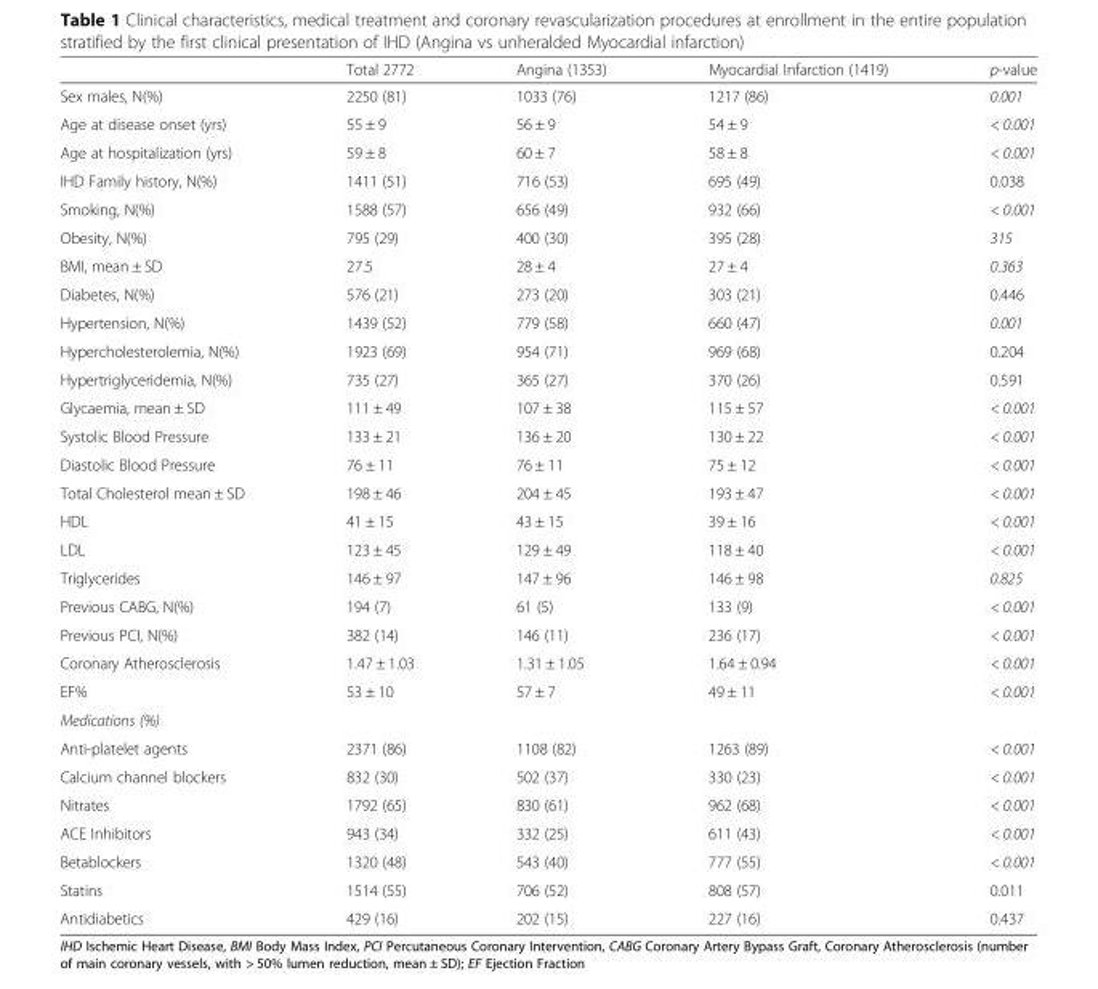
<table><thead><tr><td></td><td>Total 2772</td><td>Angina (1353)</td><td>Myocardial Infarction (1419)</td><td>p-value</td></tr></thead><tbody><tr><td>Sex males, N(%)</td><td>2250 (81)</td><td>1033 (76)</td><td>1217 (86)</td><td>0.001</td></tr><tr><td>Age at disease onset (yrs)</td><td>55 ± 9</td><td>56 ± 9</td><td>54 ± 9</td><td>&lt; 0.001</td></tr><tr><td>Age at hospitalization (yrs)</td><td>59 ± 8</td><td>60 ± 7</td><td>58 ± 8</td><td>&lt; 0.001</td></tr><tr><td>IHD Family history, N(%)</td><td>1411 (51)</td><td>716 (53)</td><td>695 (49)</td><td>0.038</td></tr><tr><td>Smoking, N(%)</td><td>1588 (57)</td><td>656 (49)</td><td>932 (66)</td><td>&lt; 0.001</td></tr><tr><td>Obesity, N(%)</td><td>795 (29)</td><td>400 (30)</td><td>395 (28)</td><td>315</td></tr><tr><td>BMI, mean ± SD</td><td>27.5</td><td>28 ± 4</td><td>27 ± 4</td><td>0.363</td></tr><tr><td>Diabetes, N(%)</td><td>576 (21)</td><td>273 (20)</td><td>303 (21)</td><td>0.446</td></tr><tr><td>Hypertension, N(%)</td><td>1439 (52)</td><td>779 (58)</td><td>660 (47)</td><td>0.001</td></tr><tr><td>Hypercholesterolemia, N(%)</td><td>1923 (69)</td><td>954 (71)</td><td>969 (68)</td><td>0.204</td></tr><tr><td>Hypertriglyceridemia, N(%)</td><td>735 (27)</td><td>365 (27)</td><td>370 (26)</td><td>0.591</td></tr><tr><td>Glycaemia, mean ± SD</td><td>111 ± 49</td><td>107 ± 38</td><td>115 ± 57</td><td>&lt; 0.001</td></tr><tr><td>Systolic Blood Pressure</td><td>133 ± 21</td><td>136 ± 20</td><td>130 ± 22</td><td>&lt; 0.001</td></tr><tr><td>Diastolic Blood Pressure</td><td>76 ± 11</td><td>76 ± 11</td><td>75 ± 12</td><td>&lt; 0.001</td></tr><tr><td>Total Cholesterol mean ± SD</td><td>198 ± 46</td><td>204 ± 45</td><td>193 ± 47</td><td>&lt; 0.001</td></tr><tr><td>HDL</td><td>41 ± 15</td><td>43 ± 15</td><td>39 ± 16</td><td>&lt; 0.001</td></tr><tr><td>LDL</td><td>123 ± 45</td><td>129 ± 49</td><td>118 ± 40</td><td>&lt; 0.001</td></tr><tr><td>Triglycerides</td><td>146 ± 97</td><td>147 ± 96</td><td>146 ± 98</td><td>0.825</td></tr><tr><td>Previous CABG, N(%)</td><td>194 (7)</td><td>61 (5)</td><td>133 (9)</td><td>&lt; 0.001</td></tr><tr><td>Previous PCI, N(%)</td><td>382 (14)</td><td>146 (11)</td><td>236 (17)</td><td>&lt; 0.001</td></tr><tr><td>Coronary Atherosclerosis</td><td>1.47 ± 1.03</td><td>1.31 ± 1.05</td><td>1.64 ± 0.94</td><td>&lt; 0.001</td></tr><tr><td>EF%</td><td>53 ± 10</td><td>57 ± 7</td><td>49 ± 11</td><td>&lt; 0.001</td></tr><tr><td colspan="5">Medications (%)</td></tr><tr><td>Anti-platelet agents</td><td>2371 (86)</td><td>1108 (82)</td><td>1263 (89)</td><td>&lt; 0.001</td></tr><tr><td>Calcium channel blockers</td><td>832 (30)</td><td>502 (37)</td><td>330 (23)</td><td>&lt; 0.001</td></tr><tr><td>Nitrates</td><td>1792 (65)</td><td>830 (61)</td><td>962 (68)</td><td>&lt; 0.001</td></tr><tr><td>ACE Inhibitors</td><td>943 (34)</td><td>332 (25)</td><td>611 (43)</td><td>&lt; 0.001</td></tr><tr><td>Betablockers</td><td>1320 (48)</td><td>543 (40)</td><td>777 (55)</td><td>&lt; 0.001</td></tr><tr><td>Statins</td><td>1514 (55)</td><td>706 (52)</td><td>808 (57)</td><td>0.011</td></tr><tr><td>Antidiabetics</td><td>429 (16)</td><td>202 (15)</td><td>227 (16)</td><td>0.437</td></tr></tbody></table>